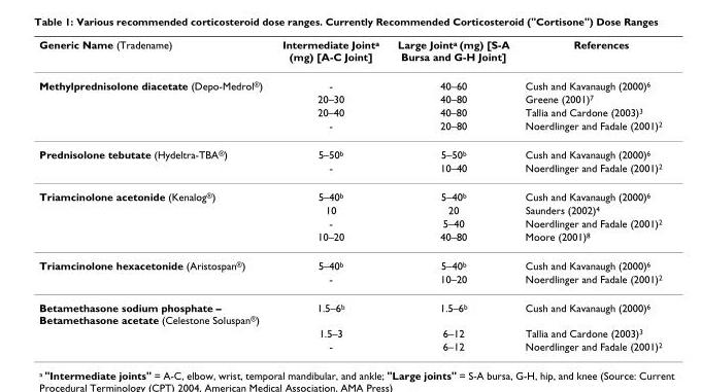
<table><thead><tr><td>Generic Name (Tradename)</td><td>Intermediate Joint<sup>a</sup> (mg) [A-C Joint]</td><td>Large Joint<sup>a</sup> (mg) [S-A Bursa and G-H Joint]</td><td>References</td></tr></thead><tbody><tr><td rowspan="4">Methylprednisolone diacetate (Depo-Medrol<sup>®</sup>)</td><td>-</td><td>40–60</td><td>Cush and Kavanaugh (2000)<sup>6</sup></td></tr><tr><td>20–30</td><td>40–80</td><td>Greene (2001)<sup>7</sup></td></tr><tr><td>20–40</td><td>40–80</td><td>Tallia and Cardone (2003)<sup>3</sup></td></tr><tr><td>-</td><td>20–80</td><td>Noerdlinger and Fadale (2001)<sup>2</sup></td></tr><tr><td rowspan="2">Prednisolone tebutate (Hydeltra-TBA<sup>®</sup>)</td><td>5–50<sup>b</sup></td><td>5–50<sup>b</sup></td><td>Cush and Kavanaugh (2000)<sup>6</sup></td></tr><tr><td>-</td><td>10–40</td><td>Noerdlinger and Fadale (2001)<sup>2</sup></td></tr><tr><td rowspan="4">Triamcinolone acetonide (Kenalog<sup>®</sup>)</td><td>5–40<sup>b</sup></td><td>5–40<sup>b</sup></td><td>Cush and Kavanaugh (2000)<sup>6</sup></td></tr><tr><td>10</td><td>20</td><td>Saunders (2002)<sup>4</sup></td></tr><tr><td>-</td><td>5–40</td><td>Noerdlinger and Fadale (2001)<sup>2</sup></td></tr><tr><td>10–20</td><td>40–80</td><td>Moore (2001)<sup>8</sup></td></tr><tr><td rowspan="2">Triamcinolone hexacetonide (Aristospan<sup>®</sup>)</td><td>5–40<sup>b</sup></td><td>5–40<sup>b</sup></td><td>Cush and Kavanaugh (2000)<sup>6</sup></td></tr><tr><td>-</td><td>10–20</td><td>Noerdlinger and Fadale (2001)<sup>2</sup></td></tr><tr><td rowspan="3">Betamethasone sodium phosphate – Betamethasone acetate (Celestone Soluspan<sup>®</sup>)</td><td>1.5–6<sup>b</sup></td><td>1.5–6<sup>b</sup></td><td>Cush and Kavanaugh (2000)<sup>6</sup></td></tr><tr><td>1.5–3</td><td>6–12</td><td>Tallia and Cardone (2003)<sup>3</sup></td></tr><tr><td>-</td><td>6–12</td><td>Noerdlinger and Fadale (2001)<sup>2</sup></td></tr></tbody></table>